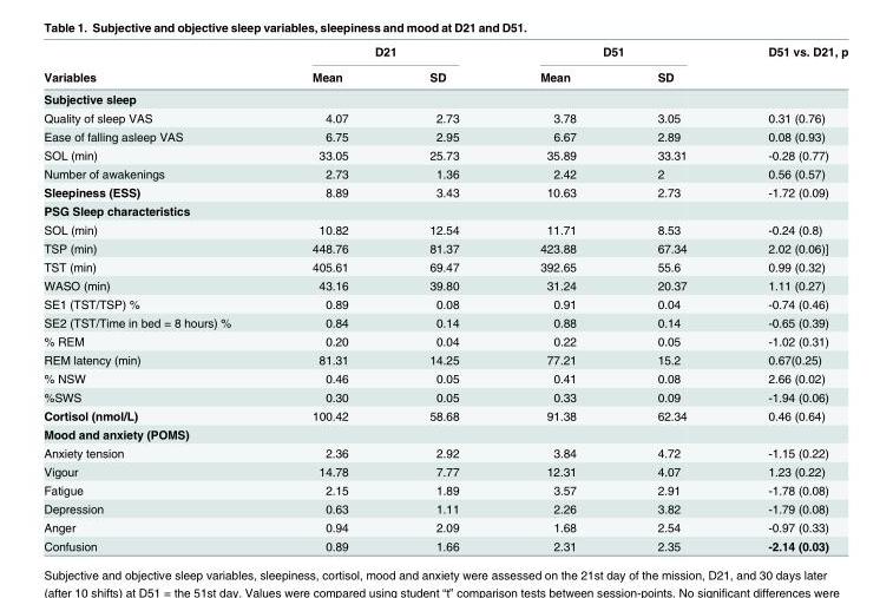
<table><thead><tr><td rowspan="2">Variables</td><td colspan="2">D21</td><td colspan="2">D51</td><td rowspan="2">D51 vs. D21, p</td></tr><tr><td>Mean</td><td>SD</td><td>Mean</td><td>SD</td></tr></thead><tbody><tr><td colspan="6">Subjective sleep</td></tr><tr><td>Quality of sleep VAS</td><td>4.07</td><td>2.73</td><td>3.78</td><td>3.05</td><td>0.31 (0.76)</td></tr><tr><td>Ease of falling asleep VAS</td><td>6.75</td><td>2.95</td><td>6.67</td><td>2.89</td><td>0.08 (0.93)</td></tr><tr><td>SOL (min)</td><td>33.05</td><td>25.73</td><td>35.89</td><td>33.31</td><td>-0.28 (0.77)</td></tr><tr><td>Number of awakenings</td><td>2.73</td><td>1.36</td><td>2.42</td><td>2</td><td>0.56 (0.57)</td></tr><tr><td>Sleepiness (ESS)</td><td>8.89</td><td>3.43</td><td>10.63</td><td>2.73</td><td>-1.72 (0.09)</td></tr><tr><td colspan="6">PSG Sleep characteristics</td></tr><tr><td>SOL (min)</td><td>10.82</td><td>12.54</td><td>11.71</td><td>8.53</td><td>-0.24 (0.8)</td></tr><tr><td>TSP (min)</td><td>448.76</td><td>81.37</td><td>423.88</td><td>67.34</td><td>2.02 (0.06)]</td></tr><tr><td>TST (min)</td><td>405.61</td><td>69.47</td><td>392.65</td><td>55.6</td><td>0.99 (0.32)</td></tr><tr><td>WASO (min)</td><td>43.16</td><td>39.80</td><td>31.24</td><td>20.37</td><td>1.11 (0.27)</td></tr><tr><td>SE1 (TST/TSP) %</td><td>0.89</td><td>0.08</td><td>0.91</td><td>0.04</td><td>-0.74 (0.46)</td></tr><tr><td>SE2 (TST/Time in bed = 8 hours) %</td><td>0.84</td><td>0.14</td><td>0.88</td><td>0.14</td><td>-0.65 (0.39)</td></tr><tr><td>% REM</td><td>0.20</td><td>0.04</td><td>0.22</td><td>0.05</td><td>-1.02 (0.31)</td></tr><tr><td>REM latency (min)</td><td>81.31</td><td>14.25</td><td>77.21</td><td>15.2</td><td>0.67(0.25)</td></tr><tr><td>% NSW</td><td>0.46</td><td>0.05</td><td>0.41</td><td>0.08</td><td>2.66 (0.02)</td></tr><tr><td>%SWS</td><td>0.30</td><td>0.05</td><td>0.33</td><td>0.09</td><td>-1.94 (0.06)</td></tr><tr><td>Cortisol (nmol/L)</td><td>100.42</td><td>58.68</td><td>91.38</td><td>62.34</td><td>0.46 (0.64)</td></tr><tr><td colspan="6">Mood and anxiety (POMS)</td></tr><tr><td>Anxiety tension</td><td>2.36</td><td>2.92</td><td>3.84</td><td>4.72</td><td>-1.15 (0.22)</td></tr><tr><td>Vigour</td><td>14.78</td><td>7.77</td><td>12.31</td><td>4.07</td><td>1.23 (0.22)</td></tr><tr><td>Fatigue</td><td>2.15</td><td>1.89</td><td>3.57</td><td>2.91</td><td>-1.78 (0.08)</td></tr><tr><td>Depression</td><td>0.63</td><td>1.11</td><td>2.26</td><td>3.82</td><td>-1.79 (0.08)</td></tr><tr><td>Anger</td><td>0.94</td><td>2.09</td><td>1.68</td><td>2.54</td><td>-0.97 (0.33)</td></tr><tr><td>Confusion</td><td>0.89</td><td>1.66</td><td>2.31</td><td>2.35</td><td>-2.14 (0.03)</td></tr></tbody></table>